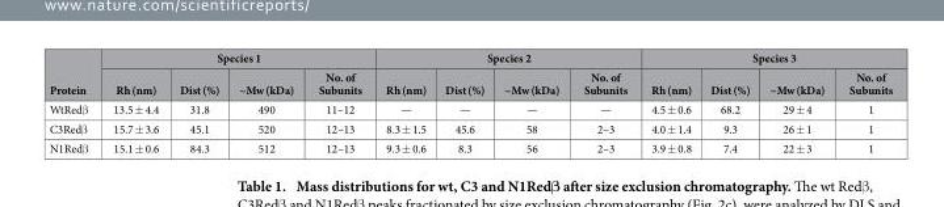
<table><thead><tr><td rowspan="2">Protein</td><td colspan="4">Species 1</td><td colspan="4">Species 2</td><td colspan="4">Species 3</td></tr><tr><td>Rh (nm)</td><td>Dist (%)</td><td>~Mw (kDa)</td><td>No. of Subunits</td><td>Rh (nm)</td><td>Dist (%)</td><td>~Mw (kDa)</td><td>No. of Subunits</td><td>Rh (nm)</td><td>Dist (%)</td><td>~Mw (kDa)</td><td>No. of Subunits</td></tr></thead><tbody><tr><td>WtRedβ</td><td>13.5 ± 4.4</td><td>31.8</td><td>490</td><td>11–12</td><td>—</td><td>—</td><td>—</td><td>—</td><td>4.5 ± 0.6</td><td>68.2</td><td>29 ± 4</td><td>1</td></tr><tr><td>C3Redβ</td><td>15.7 ± 3.6</td><td>45.1</td><td>520</td><td>12–13</td><td>8.3 ± 1.5</td><td>45.6</td><td>58</td><td>2–3</td><td>4.0 ± 1.4</td><td>9.3</td><td>26 ± 1</td><td>1</td></tr><tr><td>N1Redβ</td><td>15.1 ± 0.6</td><td>84.3</td><td>512</td><td>12–13</td><td>9.3 ± 0.6</td><td>8.3</td><td>56</td><td>2–3</td><td>3.9 ± 0.8</td><td>7.4</td><td>22 ± 3</td><td>1</td></tr></tbody></table>